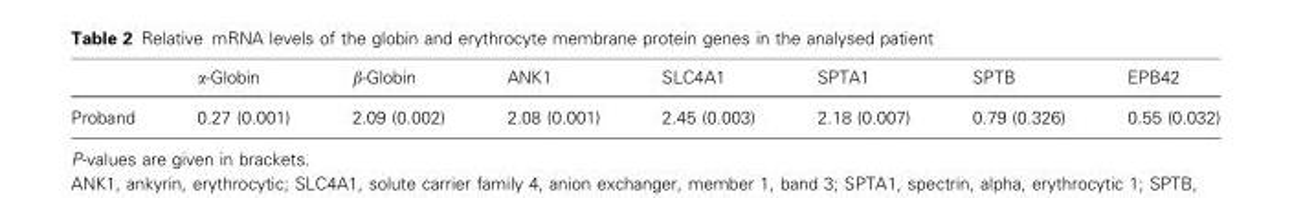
<table><thead><tr><td></td><td>α-Globin</td><td>β-Globin</td><td>ANK1</td><td>SLC4A1</td><td>SPTA1</td><td>SPTB</td><td>EPB42</td></tr></thead><tbody><tr><td>Proband</td><td>0.27 (0.001)</td><td>2.09 (0.002)</td><td>2.08 (0.001)</td><td>2.45 (0.003)</td><td>2.18 (0.007)</td><td>0.79 (0.326)</td><td>0.55 (0.032)</td></tr></tbody></table>